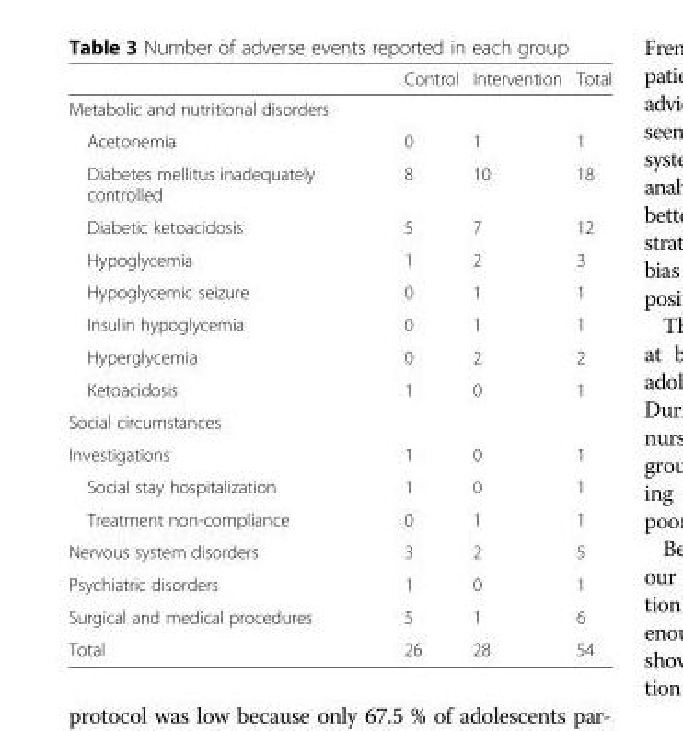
<table><thead><tr><td></td><td>Control</td><td>Intervention</td><td>Total</td></tr></thead><tbody><tr><td colspan="4">Metabolic and nutritional disorders</td></tr><tr><td>Acetonemia</td><td>0</td><td>1</td><td>1</td></tr><tr><td>Diabetes mellitus inadequately controlled</td><td>8</td><td>10</td><td>18</td></tr><tr><td>Diabetic ketoacidosis</td><td>5</td><td>7</td><td>12</td></tr><tr><td>Hypoglycemia</td><td>1</td><td>2</td><td>3</td></tr><tr><td>Hypoglycemic seizure</td><td>0</td><td>1</td><td>1</td></tr><tr><td>Insulin hypoglycemia</td><td>0</td><td>1</td><td>1</td></tr><tr><td>Hyperglycemia</td><td>0</td><td>2</td><td>2</td></tr><tr><td>Ketoacidosis</td><td>1</td><td>0</td><td>1</td></tr><tr><td colspan="4">Social circumstances</td></tr><tr><td>Investigations</td><td>1</td><td>0</td><td>1</td></tr><tr><td>Social stay hospitalization</td><td>1</td><td>0</td><td>1</td></tr><tr><td>Treatment non-compliance</td><td>0</td><td>1</td><td>1</td></tr><tr><td>Nervous system disorders</td><td>3</td><td>2</td><td>5</td></tr><tr><td>Psychiatric disorders</td><td>1</td><td>0</td><td>1</td></tr><tr><td>Surgical and medical procedures</td><td>5</td><td>1</td><td>6</td></tr><tr><td>Total</td><td>26</td><td>28</td><td>54</td></tr></tbody></table>